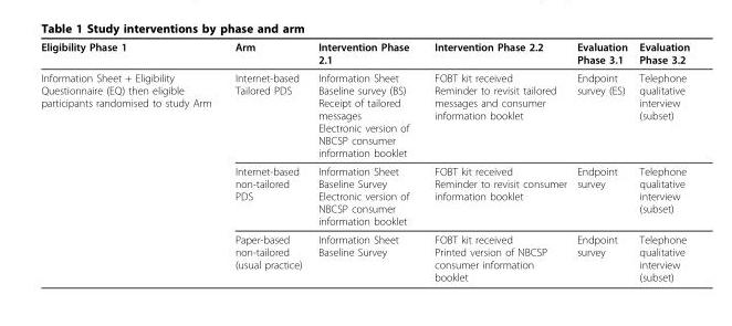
<table><thead><tr><td>Eligibility Phase 1</td><td>Arm</td><td>Intervention Phase 2.1</td><td>Intervention Phase 2.2</td><td>Evaluation Phase 3.1</td><td>Evaluation Phase 3.2</td></tr></thead><tbody><tr><td rowspan="3">Information Sheet + Eligibility Questionnaire (EQ) then eligible participants randomised to study Arm</td><td>Internet-based Tailored PDS</td><td>Information Sheet Baseline survey (BS) Receipt of tailored messages Electronic version of NBCSP consumer information booklet</td><td>FOBT kit received Reminder to revisit tailored messages and consumer information booklet</td><td>Endpoint survey (ES)</td><td>Telephone qualitative interview (subset)</td></tr><tr><td>Internet-based non-tailored PDS</td><td>Information Sheet Baseline Survey Electronic version of NBCSP consumer information booklet</td><td>FOBT kit received Reminder to revisit consumer information booklet</td><td>Endpoint survey</td><td>Telephone qualitative interview (subset)</td></tr><tr><td>Paper-based non-tailored (usual practice)</td><td>Information Sheet Baseline Survey</td><td>FOBT kit received Printed version of NBCSP consumer information booklet</td><td>Endpoint survey</td><td>Telephone qualitative interview (subset)</td></tr></tbody></table>